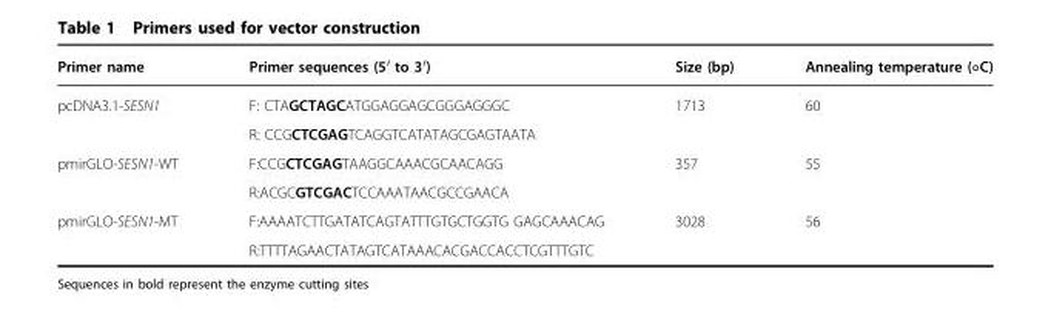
<table><thead><tr><td>Primer name</td><td>Primer sequences (5′ to 3′)</td><td>Size (bp)</td><td>Annealing temperature (◦C)</td></tr></thead><tbody><tr><td rowspan="2">pcDNA3.1-SESN1</td><td>F: CTAGCTAGCATGGAGGAGCGGGAGGGC</td><td rowspan="2">1713</td><td rowspan="2">60</td></tr><tr><td>R: CCGCTCGAGTCAGGTCATATAGCGAGTAATA</td></tr><tr><td rowspan="2">pmirGLO-SESN1-WT</td><td>F:CCGCTCGAGTAAGGCAAACGCAACAGG</td><td rowspan="2">357</td><td rowspan="2">55</td></tr><tr><td>R:ACGCGTCGACTCCAAATAACGCCGAACA</td></tr><tr><td rowspan="2">pmirGLO-SESN1-MT</td><td>F:AAAATCTTGATATCAGTATTTGTGCTGGTG GAGCAAACAG</td><td rowspan="2">3028</td><td rowspan="2">56</td></tr><tr><td>R:TTTTAGAACTATAGTCATAAACACGACCACCTCGTTTGTC</td></tr></tbody></table>